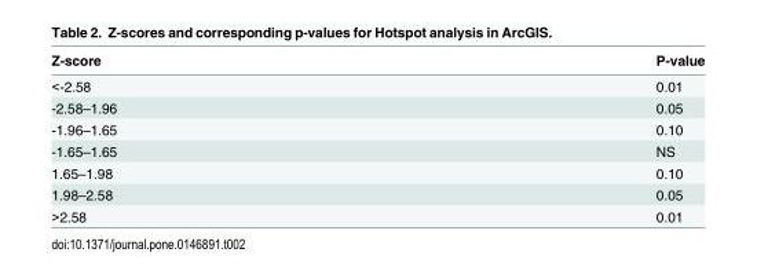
<table><thead><tr><td>Z-score</td><td>P-value</td></tr></thead><tbody><tr><td>&lt;-2.58</td><td>0.01</td></tr><tr><td>-2.58–1.96</td><td>0.05</td></tr><tr><td>-1.96–1.65</td><td>0.10</td></tr><tr><td>-1.65–1.65</td><td>NS</td></tr><tr><td>1.65–1.98</td><td>0.10</td></tr><tr><td>1.98–2.58</td><td>0.05</td></tr><tr><td>&gt;2.58</td><td>0.01</td></tr></tbody></table>